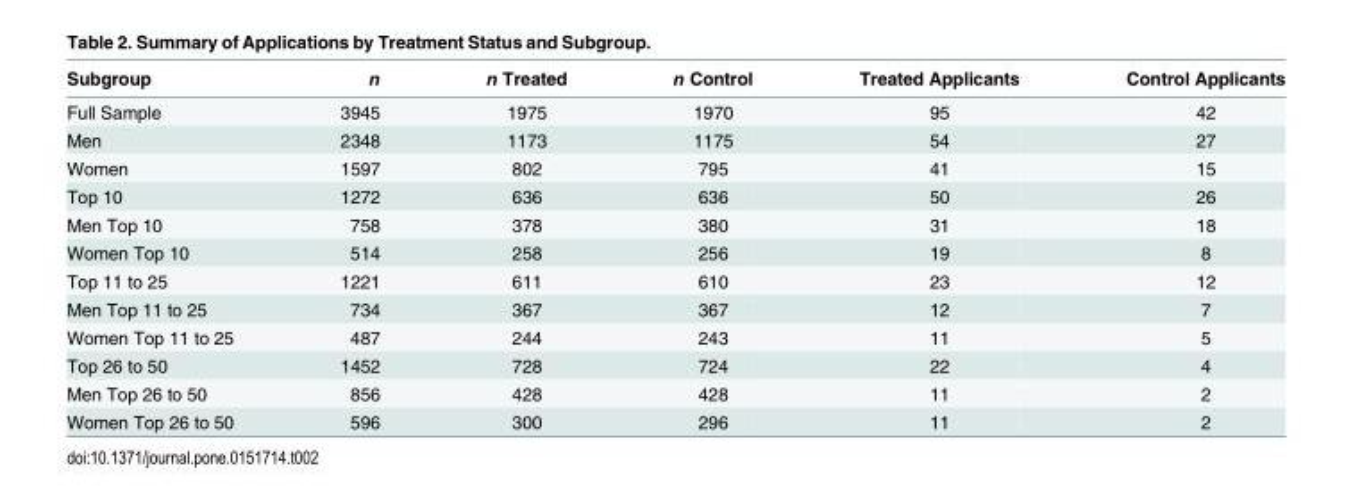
<table><thead><tr><td>Subgroup</td><td>n</td><td>n Treated</td><td>n Control</td><td>Treated Applicants</td><td>Control Applicants</td></tr></thead><tbody><tr><td>Full Sample</td><td>3945</td><td>1975</td><td>1970</td><td>95</td><td>42</td></tr><tr><td>Men</td><td>2348</td><td>1173</td><td>1175</td><td>54</td><td>27</td></tr><tr><td>Women</td><td>1597</td><td>802</td><td>795</td><td>41</td><td>15</td></tr><tr><td>Top 10</td><td>1272</td><td>636</td><td>636</td><td>50</td><td>26</td></tr><tr><td>Men Top 10</td><td>758</td><td>378</td><td>380</td><td>31</td><td>18</td></tr><tr><td>Women Top 10</td><td>514</td><td>258</td><td>256</td><td>19</td><td>8</td></tr><tr><td>Top 11 to 25</td><td>1221</td><td>611</td><td>610</td><td>23</td><td>12</td></tr><tr><td>Men Top 11 to 25</td><td>734</td><td>367</td><td>367</td><td>12</td><td>7</td></tr><tr><td>Women Top 11 to 25</td><td>487</td><td>244</td><td>243</td><td>11</td><td>5</td></tr><tr><td>Top 26 to 50</td><td>1452</td><td>728</td><td>724</td><td>22</td><td>4</td></tr><tr><td>Men Top 26 to 50</td><td>856</td><td>428</td><td>428</td><td>11</td><td>2</td></tr><tr><td>Women Top 26 to 50</td><td>596</td><td>300</td><td>296</td><td>11</td><td>2</td></tr></tbody></table>